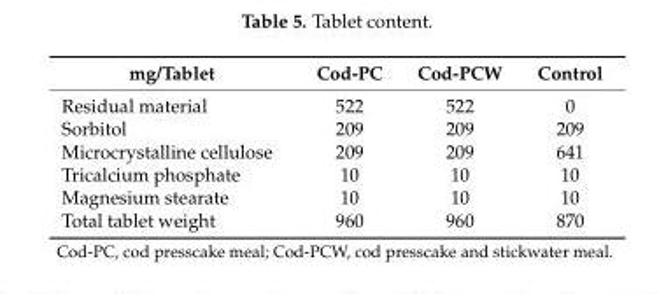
<table><thead><tr><td>mg/Tablet</td><td>Cod-PC</td><td>Cod-PCW</td><td>Control</td></tr></thead><tbody><tr><td>Residual material</td><td>522</td><td>522</td><td>0</td></tr><tr><td>Sorbitol</td><td>209</td><td>209</td><td>209</td></tr><tr><td>Microcrystalline cellulose</td><td>209</td><td>209</td><td>641</td></tr><tr><td>Tricalcium phosphate</td><td>10</td><td>10</td><td>10</td></tr><tr><td>Magnesium stearate</td><td>10</td><td>10</td><td>10</td></tr><tr><td>Total tablet weight</td><td>960</td><td>960</td><td>870</td></tr></tbody></table>